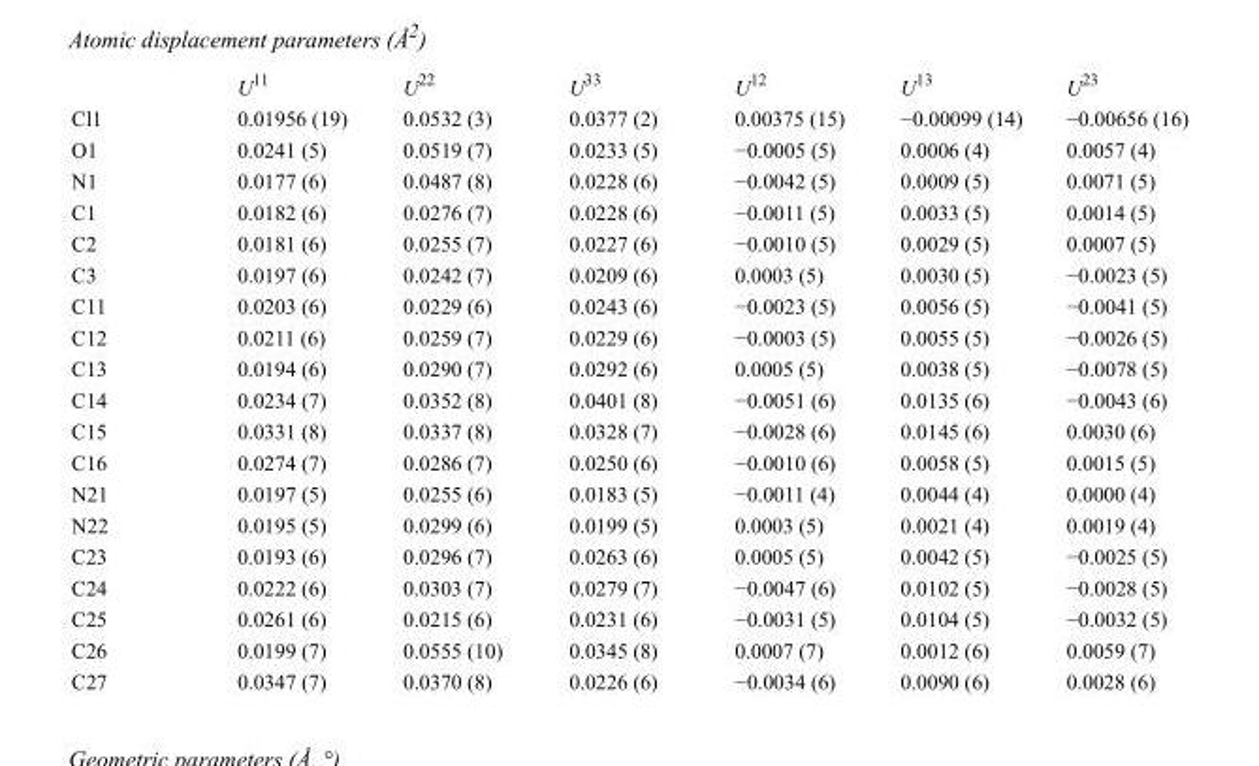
<table><thead><tr><td></td><td>U<sup>11</sup></td><td>U<sup>22</sup></td><td>U<sup>33</sup></td><td>U<sup>12</sup></td><td>U<sup>13</sup></td><td>U<sup>23</sup></td></tr></thead><tbody><tr><td>Cl1</td><td>0.01956 (19)</td><td>0.0532 (3)</td><td>0.0377 (2)</td><td>0.00375 (15)</td><td>−0.00099 (14)</td><td>−0.00656 (16)</td></tr><tr><td>O1</td><td>0.0241 (5)</td><td>0.0519 (7)</td><td>0.0233 (5)</td><td>−0.0005 (5)</td><td>0.0006 (4)</td><td>0.0057 (4)</td></tr><tr><td>N1</td><td>0.0177 (6)</td><td>0.0487 (8)</td><td>0.0228 (6)</td><td>−0.0042 (5)</td><td>0.0009 (5)</td><td>0.0071 (5)</td></tr><tr><td>C1</td><td>0.0182 (6)</td><td>0.0276 (7)</td><td>0.0228 (6)</td><td>−0.0011 (5)</td><td>0.0033 (5)</td><td>0.0014 (5)</td></tr><tr><td>C2</td><td>0.0181 (6)</td><td>0.0255 (7)</td><td>0.0227 (6)</td><td>−0.0010 (5)</td><td>0.0029 (5)</td><td>0.0007 (5)</td></tr><tr><td>C3</td><td>0.0197 (6)</td><td>0.0242 (7)</td><td>0.0209 (6)</td><td>0.0003 (5)</td><td>0.0030 (5)</td><td>−0.0023 (5)</td></tr><tr><td>C11</td><td>0.0203 (6)</td><td>0.0229 (6)</td><td>0.0243 (6)</td><td>−0.0023 (5)</td><td>0.0056 (5)</td><td>−0.0041 (5)</td></tr><tr><td>C12</td><td>0.0211 (6)</td><td>0.0259 (7)</td><td>0.0229 (6)</td><td>−0.0003 (5)</td><td>0.0055 (5)</td><td>−0.0026 (5)</td></tr><tr><td>C13</td><td>0.0194 (6)</td><td>0.0290 (7)</td><td>0.0292 (6)</td><td>0.0005 (5)</td><td>0.0038 (5)</td><td>−0.0078 (5)</td></tr><tr><td>C14</td><td>0.0234 (7)</td><td>0.0352 (8)</td><td>0.0401 (8)</td><td>−0.0051 (6)</td><td>0.0135 (6)</td><td>−0.0043 (6)</td></tr><tr><td>C15</td><td>0.0331 (8)</td><td>0.0337 (8)</td><td>0.0328 (7)</td><td>−0.0028 (6)</td><td>0.0145 (6)</td><td>0.0030 (6)</td></tr><tr><td>C16</td><td>0.0274 (7)</td><td>0.0286 (7)</td><td>0.0250 (6)</td><td>−0.0010 (6)</td><td>0.0058 (5)</td><td>0.0015 (5)</td></tr><tr><td>N21</td><td>0.0197 (5)</td><td>0.0255 (6)</td><td>0.0183 (5)</td><td>−0.0011 (4)</td><td>0.0044 (4)</td><td>0.0000 (4)</td></tr><tr><td>N22</td><td>0.0195 (5)</td><td>0.0299 (6)</td><td>0.0199 (5)</td><td>0.0003 (5)</td><td>0.0021 (4)</td><td>0.0019 (4)</td></tr><tr><td>C23</td><td>0.0193 (6)</td><td>0.0296 (7)</td><td>0.0263 (6)</td><td>0.0005 (5)</td><td>0.0042 (5)</td><td>−0.0025 (5)</td></tr><tr><td>C24</td><td>0.0222 (6)</td><td>0.0303 (7)</td><td>0.0279 (7)</td><td>−0.0047 (6)</td><td>0.0102 (5)</td><td>−0.0028 (5)</td></tr><tr><td>C25</td><td>0.0261 (6)</td><td>0.0215 (6)</td><td>0.0231 (6)</td><td>−0.0031 (5)</td><td>0.0104 (5)</td><td>−0.0032 (5)</td></tr><tr><td>C26</td><td>0.0199 (7)</td><td>0.0555 (10)</td><td>0.0345 (8)</td><td>0.0007 (7)</td><td>0.0012 (6)</td><td>0.0059 (7)</td></tr><tr><td>C27</td><td>0.0347 (7)</td><td>0.0370 (8)</td><td>0.0226 (6)</td><td>−0.0034 (6)</td><td>0.0090 (6)</td><td>0.0028 (6)</td></tr></tbody></table>